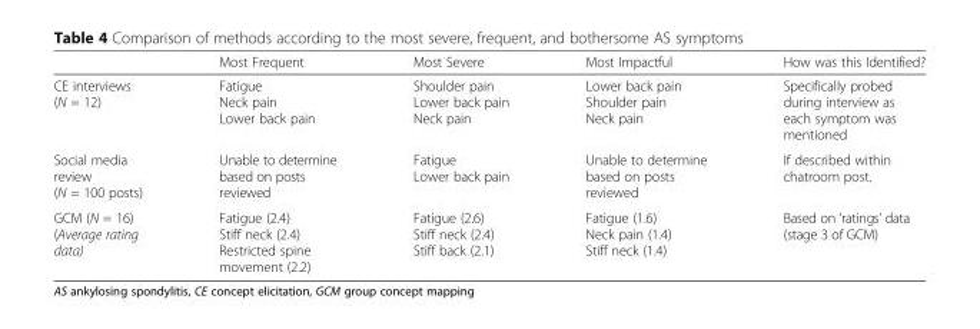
<table><thead><tr><td></td><td>Most Frequent</td><td>Most Severe</td><td>Most Impactful</td><td>How was this Identified?</td></tr></thead><tbody><tr><td>CE interviews (N = 12)</td><td>Fatigue Neck pain Lower back pain</td><td>Shoulder pain Lower back pain Neck pain</td><td>Lower back pain Shoulder pain Neck pain</td><td>Specifically probed during interview as each symptom was mentioned</td></tr><tr><td>Social media review (N = 100 posts)</td><td>Unable to determine based on posts reviewed</td><td>Fatigue Lower back pain</td><td>Unable to determine based on posts reviewed</td><td>If described within chatroom post.</td></tr><tr><td>GCM (N = 16) (Average rating data)</td><td>Fatigue (2.4) Stiff neck (2.4) Restricted spine movement (2.2)</td><td>Fatigue (2.6) Stiff neck (2.4) Stiff back (2.1)</td><td>Fatigue (1.6) Neck pain (1.4) Stiff neck (1.4)</td><td>Based on ‘ratings’ data (stage 3 of GCM)</td></tr></tbody></table>